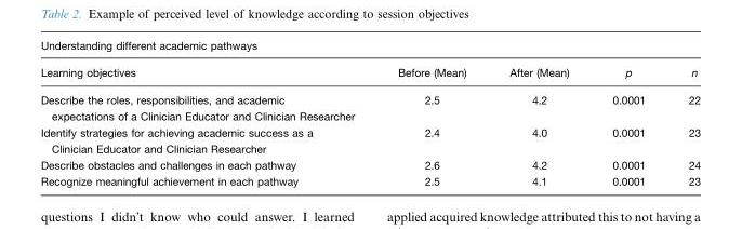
<table><thead><tr><td colspan="5">Understanding different academic pathways</td></tr><tr><td>Learning objectives</td><td>Before (Mean)</td><td>After (Mean)</td><td>p</td><td>n</td></tr></thead><tbody><tr><td>Describe the roles, responsibilities, and academic expectations of a Clinician Educator and Clinician Researcher</td><td>2.5</td><td>4.2</td><td>0.0001</td><td>22</td></tr><tr><td>Identify strategies for achieving academic success as a Clinician Educator and Clinician Researcher</td><td>2.4</td><td>4.0</td><td>0.0001</td><td>23</td></tr><tr><td>Describe obstacles and challenges in each pathway</td><td>2.6</td><td>4.2</td><td>0.0001</td><td>24</td></tr><tr><td>Recognize meaningful achievement in each pathway</td><td>2.5</td><td>4.1</td><td>0.0001</td><td>23</td></tr></tbody></table>